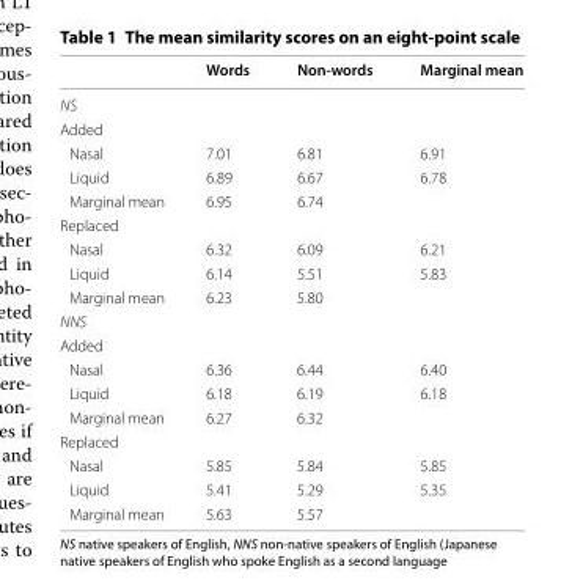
<table><thead><tr><td></td><td>Words</td><td>Non-words</td><td>Marginal mean</td></tr></thead><tbody><tr><td colspan="4">NS</td></tr><tr><td colspan="4">Added</td></tr><tr><td>Nasal</td><td>7.01</td><td>6.81</td><td>6.91</td></tr><tr><td>Liquid</td><td>6.89</td><td>6.67</td><td>6.78</td></tr><tr><td>Marginal mean</td><td>6.95</td><td>6.74</td><td></td></tr><tr><td colspan="4">Replaced</td></tr><tr><td>Nasal</td><td>6.32</td><td>6.09</td><td>6.21</td></tr><tr><td>Liquid</td><td>6.14</td><td>5.51</td><td>5.83</td></tr><tr><td>Marginal mean</td><td>6.23</td><td>5.80</td><td></td></tr><tr><td colspan="4">NNS</td></tr><tr><td colspan="4">Added</td></tr><tr><td>Nasal</td><td>6.36</td><td>6.44</td><td>6.40</td></tr><tr><td>Liquid</td><td>6.18</td><td>6.19</td><td>6.18</td></tr><tr><td>Marginal mean</td><td>6.27</td><td>6.32</td><td></td></tr><tr><td colspan="4">Replaced</td></tr><tr><td>Nasal</td><td>5.85</td><td>5.84</td><td>5.85</td></tr><tr><td>Liquid</td><td>5.41</td><td>5.29</td><td>5.35</td></tr><tr><td>Marginal mean</td><td>5.63</td><td>5.57</td><td></td></tr></tbody></table>